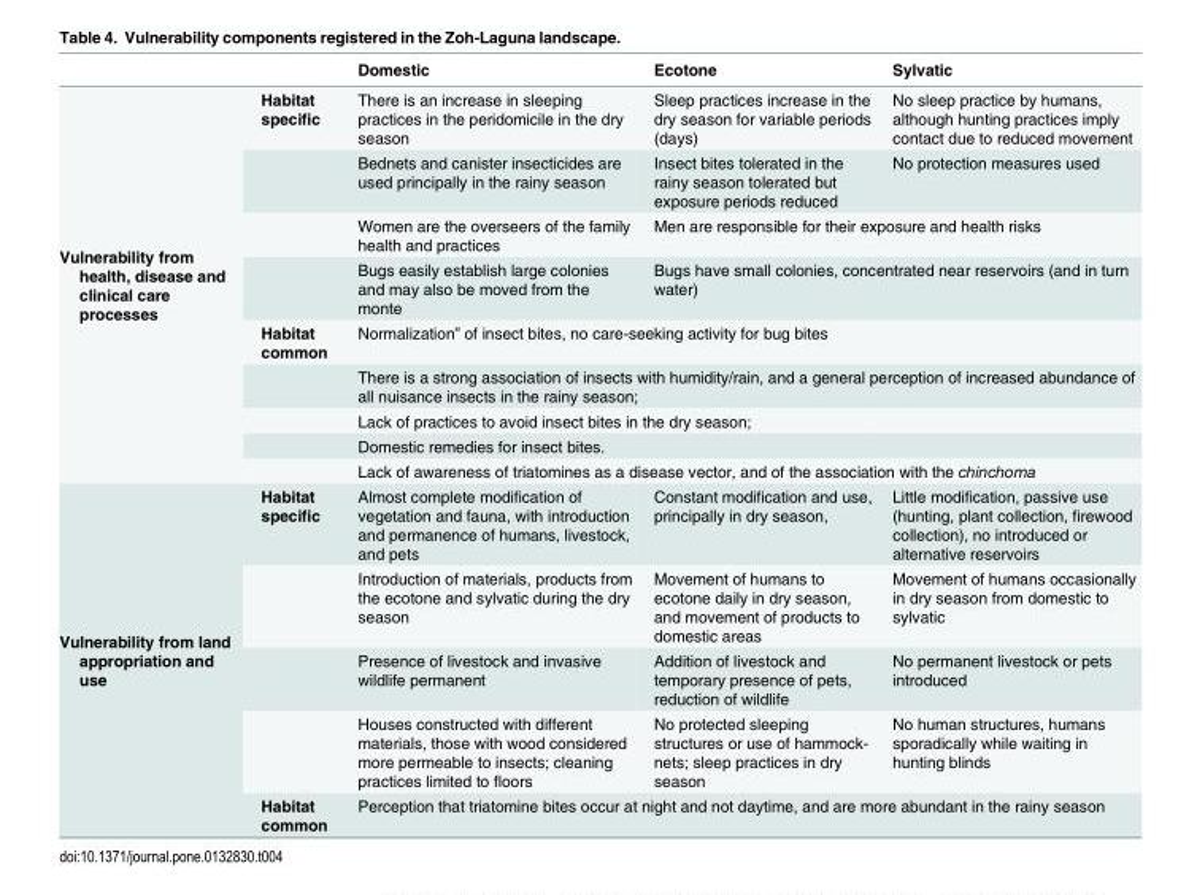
<table><thead><tr><td></td><td></td><td>Domestic</td><td>Ecotone</td><td>Sylvatic</td></tr></thead><tbody><tr><td rowspan="9">Vulnerability from health, disease and clinical care processes</td><td>Habitat specific</td><td>There is an increase in sleeping practices in the peridomicile in the dry season</td><td>Sleep practices increase in the dry season for variable periods (days)</td><td>No sleep practice by humans, although hunting practices imply contact due to reduced movement</td></tr><tr><td></td><td>Bednets and canister insecticides are used principally in the rainy season</td><td>Insect bites tolerated in the rainy season tolerated but exposure periods reduced</td><td>No protection measures used</td></tr><tr><td></td><td>Women are the overseers of the family health and practices</td><td colspan="2">Men are responsible for their exposure and health risks</td></tr><tr><td></td><td>Bugs easily establish large colonies and may also be moved from the monte</td><td colspan="2">Bugs have small colonies, concentrated near reservoirs (and in turn water)</td></tr><tr><td>Habitat common</td><td colspan="3">Normalization” of insect bites, no care-seeking activity for bug bites</td></tr><tr><td></td><td colspan="3">There is a strong association of insects with humidity/rain, and a general perception of increased abundance of all nuisance insects in the rainy season;</td></tr><tr><td></td><td colspan="2">Lack of practices to avoid insect bites in the dry season;</td><td></td></tr><tr><td></td><td colspan="2">Domestic remedies for insect bites.</td><td></td></tr><tr><td></td><td colspan="3">Lack of awareness of triatomines as a disease vector, and of the association with the chinchoma</td></tr><tr><td rowspan="5">Vulnerability from land appropriation and use</td><td>Habitat specific</td><td>Almost complete modification of vegetation and fauna, with introduction and permanence of humans, livestock, and pets</td><td>Constant modification and use, principally in dry season,</td><td>Little modification, passive use (hunting, plant collection, firewood collection), no introduced or alternative reservoirs</td></tr><tr><td></td><td>Introduction of materials, products from the ecotone and sylvatic during the dry season</td><td>Movement of humans to ecotone daily in dry season, and movement of products to domestic areas</td><td>Movement of humans occasionally in dry season from domestic to sylvatic</td></tr><tr><td></td><td>Presence of livestock and invasive wildlife permanent</td><td>Addition of livestock and temporary presence of pets, reduction of wildlife</td><td>No permanent livestock or pets introduced</td></tr><tr><td></td><td>Houses constructed with different materials, those with wood considered more permeable to insects; cleaning practices limited to floors</td><td>No protected sleeping structures or use of hammock- nets; sleep practices in dry season</td><td>No human structures, humans sporadically while waiting in hunting blinds</td></tr><tr><td>Habitat common</td><td colspan="3">Perception that triatomine bites occur at night and not daytime, and are more abundant in the rainy season</td></tr></tbody></table>